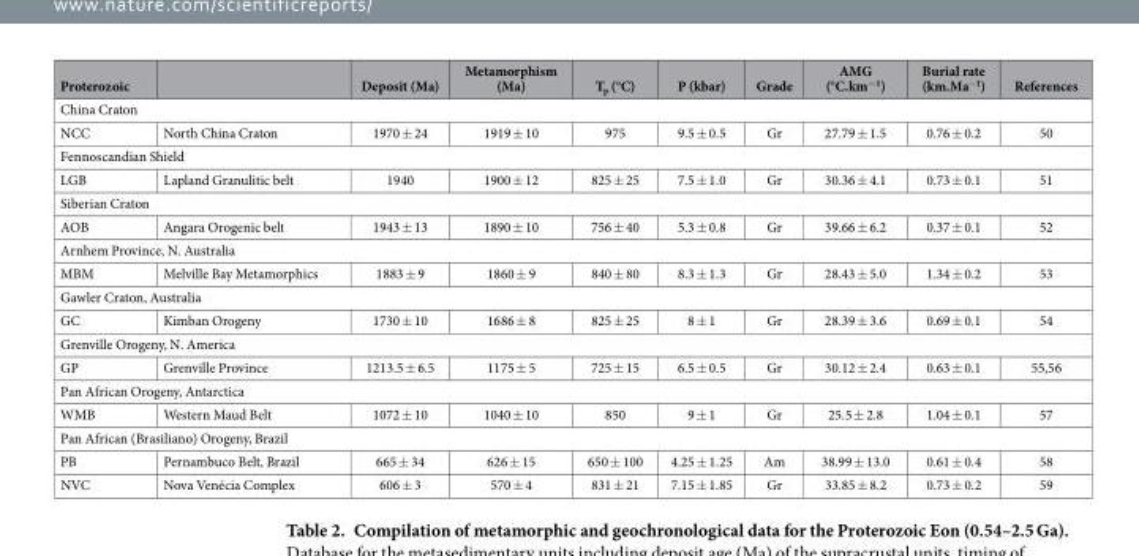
<table><thead><tr><td>Proterozoic</td><td></td><td>Deposit (Ma)</td><td>Metamorphism (Ma)</td><td>T<sub>p</sub> (°C)</td><td>P (kbar)</td><td>Grade</td><td>AMG (°C.km<sup>−1</sup>)</td><td>Burial rate (km.Ma<sup>−1</sup>)</td><td>References</td></tr></thead><tbody><tr><td colspan="10">China Craton</td></tr><tr><td>NCC</td><td>North China Craton</td><td>1970 ± 24</td><td>1919 ± 10</td><td>975</td><td>9.5 ± 0.5</td><td>Gr</td><td>27.79 ± 1.5</td><td>0.76 ± 0.2</td><td>50</td></tr><tr><td colspan="10">Fennoscandian Shield</td></tr><tr><td>LGB</td><td>Lapland Granulitic belt</td><td>1940</td><td>1900 ± 12</td><td>825 ± 25</td><td>7.5 ± 1.0</td><td>Gr</td><td>30.36 ± 4.1</td><td>0.73 ± 0.1</td><td>51</td></tr><tr><td colspan="10">Siberian Craton</td></tr><tr><td>AOB</td><td>Angara Orogenic belt</td><td>1943 ± 13</td><td>1890 ± 10</td><td>756 ± 40</td><td>5.3 ± 0.8</td><td>Gr</td><td>39.66 ± 6.2</td><td>0.37 ± 0.1</td><td>52</td></tr><tr><td colspan="10">Arnhem Province, N. Australia</td></tr><tr><td>MBM</td><td>Melville Bay Metamorphics</td><td>1883 ± 9</td><td>1860 ± 9</td><td>840 ± 80</td><td>8.3 ± 1.3</td><td>Gr</td><td>28.43 ± 5.0</td><td>1.34 ± 0.2</td><td>53</td></tr><tr><td colspan="10">Gawler Craton, Australia</td></tr><tr><td>GC</td><td>Kimban Orogeny</td><td>1730 ± 10</td><td>1686 ± 8</td><td>825 ± 25</td><td>8 ± 1</td><td>Gr</td><td>28.39 ± 3.6</td><td>0.69 ± 0.1</td><td>54</td></tr><tr><td colspan="10">Grenville Orogeny, N. America</td></tr><tr><td>GP</td><td>Grenville Province</td><td>1213.5 ± 6.5</td><td>1175 ± 5</td><td>725 ± 15</td><td>6.5 ± 0.5</td><td>Gr</td><td>30.12 ± 2.4</td><td>0.63 ± 0.1</td><td>55,56</td></tr><tr><td colspan="10">Pan African Orogeny, Antarctica</td></tr><tr><td>WMB</td><td>Western Maud Belt</td><td>1072 ± 10</td><td>1040 ± 10</td><td>850</td><td>9 ± 1</td><td>Gr</td><td>25.5 ± 2.8</td><td>1.04 ± 0.1</td><td>57</td></tr><tr><td colspan="10">Pan African (Brasiliano) Orogeny, Brazil</td></tr><tr><td>PB</td><td>Pernambuco Belt, Brazil</td><td>665 ± 34</td><td>626 ± 15</td><td>650 ± 100</td><td>4.25 ± 1.25</td><td>Am</td><td>38.99 ± 13.0</td><td>0.61 ± 0.4</td><td>58</td></tr><tr><td>NVC</td><td>Nova Venécia Complex</td><td>606 ± 3</td><td>570 ± 4</td><td>831 ± 21</td><td>7.15 ± 1.85</td><td>Gr</td><td>33.85 ± 8.2</td><td>0.73 ± 0.2</td><td>59</td></tr></tbody></table>